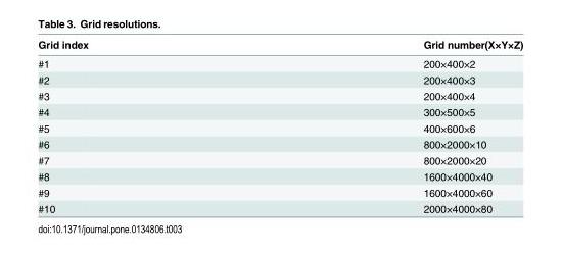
<table><thead><tr><td>Grid index</td><td>Grid number(X×Y×Z)</td></tr></thead><tbody><tr><td>#1</td><td>200×400×2</td></tr><tr><td>#2</td><td>200×400×3</td></tr><tr><td>#3</td><td>200×400×4</td></tr><tr><td>#4</td><td>300×500×5</td></tr><tr><td>#5</td><td>400×600×6</td></tr><tr><td>#6</td><td>800×2000×10</td></tr><tr><td>#7</td><td>800×2000×20</td></tr><tr><td>#8</td><td>1600×4000×40</td></tr><tr><td>#9</td><td>1600×4000×60</td></tr><tr><td>#10</td><td>2000×4000×80</td></tr></tbody></table>